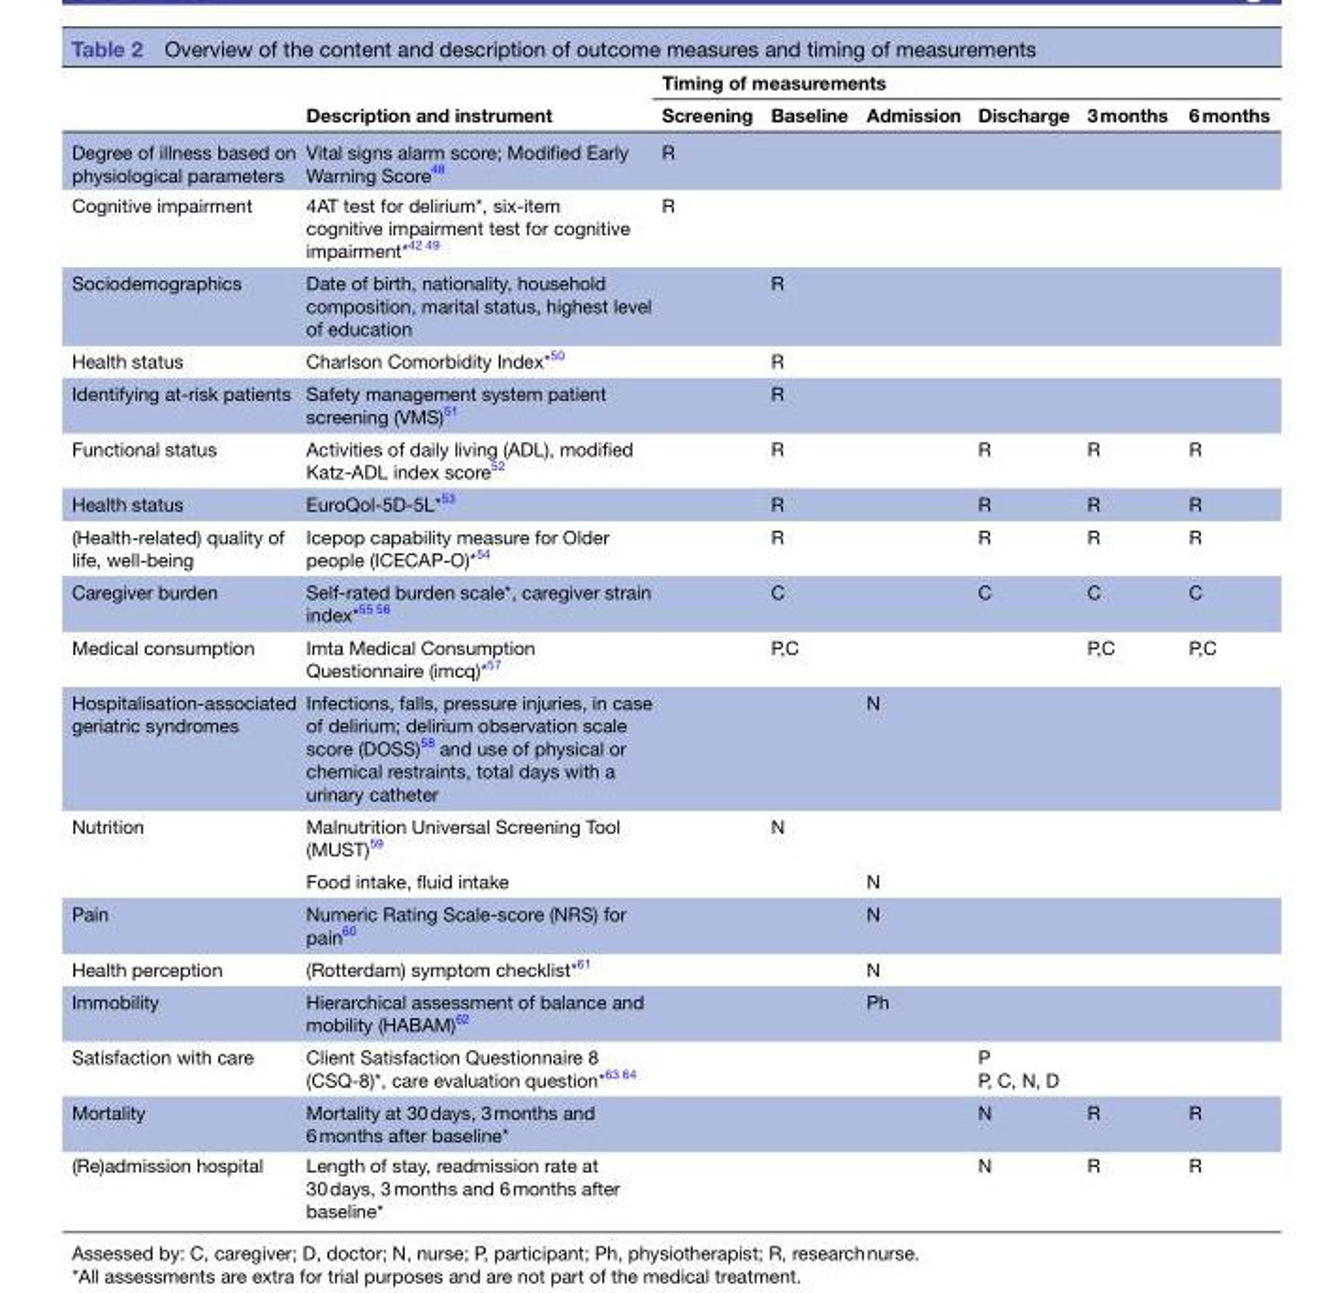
<table><thead><tr><td rowspan="2"></td><td rowspan="2">Description and instrument</td><td colspan="6">Timing of measurements</td></tr><tr><td>Screening</td><td>Baseline</td><td>Admission</td><td>Discharge</td><td>3 months</td><td>6 months</td></tr></thead><tbody><tr><td>Degree of illness based on physiological parameters</td><td>Vital signs alarm score; Modified Early Warning Score<sup>48</sup></td><td>R</td><td></td><td></td><td></td><td></td><td></td></tr><tr><td>Cognitive impairment</td><td>4AT test for delirium*, six-item cognitive impairment test for cognitive impairment*<sup>42 49</sup></td><td>R</td><td></td><td></td><td></td><td></td><td></td></tr><tr><td>Sociodemographics</td><td>Date of birth, nationality, household composition, marital status, highest level of education</td><td></td><td>R</td><td></td><td></td><td></td><td></td></tr><tr><td>Health status</td><td>Charlson Comorbidity Index*<sup>50</sup></td><td></td><td>R</td><td></td><td></td><td></td><td></td></tr><tr><td>Identifying at-risk patients</td><td>Safety management system patient screening (VMS)<sup>51</sup></td><td></td><td>R</td><td></td><td></td><td></td><td></td></tr><tr><td>Functional status</td><td>Activities of daily living (ADL), modified Katz-ADL index score<sup>52</sup></td><td></td><td>R</td><td></td><td>R</td><td>R</td><td>R</td></tr><tr><td>Health status</td><td>EuroQol-5D-5L*<sup>53</sup></td><td></td><td>R</td><td></td><td>R</td><td>R</td><td>R</td></tr><tr><td>(Health-related) quality of life, well-being</td><td>Icepop capability measure for Older people (ICECAP-O)*<sup>54</sup></td><td></td><td>R</td><td></td><td>R</td><td>R</td><td>R</td></tr><tr><td>Caregiver burden</td><td>Self-rated burden scale*, caregiver strain index*<sup>55 56</sup></td><td></td><td>C</td><td></td><td>C</td><td>C</td><td>C</td></tr><tr><td>Medical consumption</td><td>Imta Medical Consumption Questionnaire (imcq)*<sup>57</sup></td><td></td><td>P,C</td><td></td><td></td><td>P,C</td><td>P,C</td></tr><tr><td>Hospitalisation-associated geriatric syndromes</td><td>Infections, falls, pressure injuries, in case of delirium; delirium observation scale score (DOSS)<sup>58</sup> and use of physical or chemical restraints, total days with a urinary catheter</td><td></td><td></td><td>N</td><td></td><td></td><td></td></tr><tr><td rowspan="2">Nutrition</td><td>Malnutrition Universal Screening Tool (MUST)<sup>59</sup></td><td></td><td>N</td><td></td><td></td><td></td><td></td></tr><tr><td>Food intake, fluid intake</td><td></td><td></td><td>N</td><td></td><td></td><td></td></tr><tr><td>Pain</td><td>Numeric Rating Scale-score (NRS) for pain<sup>60</sup></td><td></td><td></td><td>N</td><td></td><td></td><td></td></tr><tr><td>Health perception</td><td>(Rotterdam) symptom checklist*<sup>61</sup></td><td></td><td></td><td>N</td><td></td><td></td><td></td></tr><tr><td>Immobility</td><td>Hierarchical assessment of balance and mobility (HABAM)<sup>62</sup></td><td></td><td></td><td>Ph</td><td></td><td></td><td></td></tr><tr><td>Satisfaction with care</td><td>Client Satisfaction Questionnaire 8 (CSQ-8)*, care evaluation question*<sup>63 64</sup></td><td></td><td></td><td></td><td>P P, C, N, D</td><td></td><td></td></tr><tr><td>Mortality</td><td>Mortality at 30 days, 3 months and 6 months after baseline*</td><td></td><td></td><td></td><td>N</td><td>R</td><td>R</td></tr><tr><td>(Re)admission hospital</td><td>Length of stay, readmission rate at 30 days, 3 months and 6 months after baseline*</td><td></td><td></td><td></td><td>N</td><td>R</td><td>R</td></tr></tbody></table>